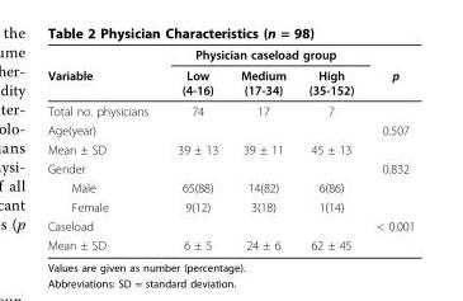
<table><thead><tr><td rowspan="2">Variable</td><td colspan="3">Physician caseload group</td><td rowspan="2">p</td></tr><tr><td>Low (4-16)</td><td>Medium (17-34)</td><td>High (35-152)</td></tr></thead><tbody><tr><td>Total no. physicians</td><td>74</td><td>17</td><td>7</td><td></td></tr><tr><td>Age(year)</td><td></td><td></td><td></td><td>0.507</td></tr><tr><td>Mean ± SD</td><td>39 ± 13</td><td>39 ± 11</td><td>45 ± 13</td><td></td></tr><tr><td>Gender</td><td></td><td></td><td></td><td>0.832</td></tr><tr><td>Male</td><td>65(88)</td><td>14(82)</td><td>6(86)</td><td></td></tr><tr><td>Female</td><td>9(12)</td><td>3(18)</td><td>1(14)</td><td></td></tr><tr><td>Caseload</td><td></td><td></td><td></td><td>&lt; 0.001</td></tr><tr><td>Mean ± SD</td><td>6 ± 5</td><td>24 ± 6</td><td>62 ± 45</td><td></td></tr></tbody></table>